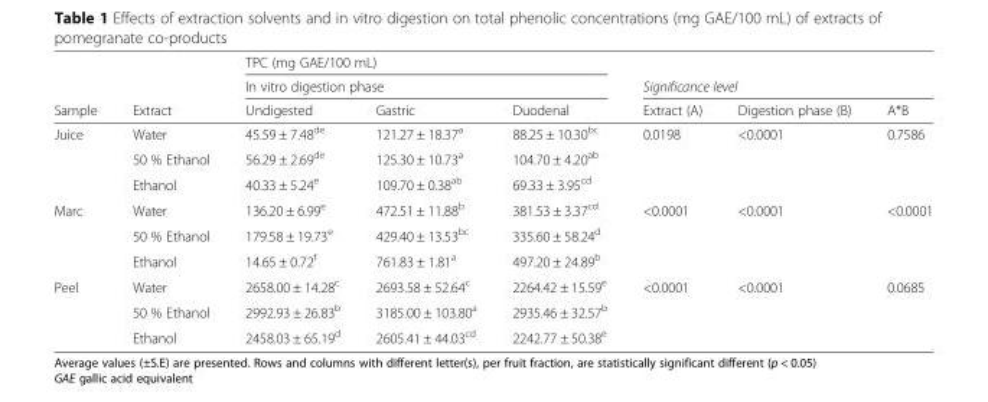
<table><thead><tr><td rowspan="3">Sample</td><td rowspan="3">Extract</td><td rowspan="2" colspan="3">TPC (mg GAE/100 mL) In vitro digestion phase</td><td></td><td></td><td></td></tr><tr><td colspan="3">Significance level</td></tr><tr><td>Undigested</td><td>Gastric</td><td>Duodenal</td><td>Extract (A)</td><td>Digestion phase (B)</td><td>A*B</td></tr></thead><tbody><tr><td rowspan="3">Juice</td><td>Water</td><td>45.59 ± 7.48<sup>de</sup></td><td>121.27 ± 18.37<sup>a</sup></td><td>88.25 ± 10.30<sup>bc</sup></td><td>0.0198</td><td>&lt;0.0001</td><td>0.7586</td></tr><tr><td>50 % Ethanol</td><td>56.29 ± 2.69<sup>de</sup></td><td>125.30 ± 10.73<sup>a</sup></td><td>104.70 ± 4.20<sup>ab</sup></td><td></td><td></td><td></td></tr><tr><td>Ethanol</td><td>40.33 ± 5.24<sup>e</sup></td><td>109.70 ± 0.38<sup>ab</sup></td><td>69.33 ± 3.95<sup>cd</sup></td><td></td><td></td><td></td></tr><tr><td rowspan="3">Marc</td><td>Water</td><td>136.20 ± 6.99<sup>e</sup></td><td>472.51 ± 11.88<sup>b</sup></td><td>381.53 ± 3.37<sup>cd</sup></td><td>&lt;0.0001</td><td>&lt;0.0001</td><td>&lt;0.0001</td></tr><tr><td>50 % Ethanol</td><td>179.58 ± 19.73<sup>e</sup></td><td>429.40 ± 13.53<sup>bc</sup></td><td>335.60 ± 58.24<sup>d</sup></td><td></td><td></td><td></td></tr><tr><td>Ethanol</td><td>14.65 ± 0.72<sup>f</sup></td><td>761.83 ± 1.81<sup>a</sup></td><td>497.20 ± 24.89<sup>b</sup></td><td></td><td></td><td></td></tr><tr><td rowspan="3">Peel</td><td>Water</td><td>2658.00 ± 14.28<sup>c</sup></td><td>2693.58 ± 52.64<sup>c</sup></td><td>2264.42 ± 15.59<sup>e</sup></td><td>&lt;0.0001</td><td>&lt;0.0001</td><td>0.0685</td></tr><tr><td>50 % Ethanol</td><td>2992.93 ± 26.83<sup>b</sup></td><td>3185.00 ± 103.80<sup>a</sup></td><td>2935.46 ± 32.57<sup>b</sup></td><td></td><td></td><td></td></tr><tr><td>Ethanol</td><td>2458.03 ± 65.19<sup>d</sup></td><td>2605.41 ± 44.03<sup>cd</sup></td><td>2242.77 ± 50.38<sup>e</sup></td><td></td><td></td><td></td></tr></tbody></table>